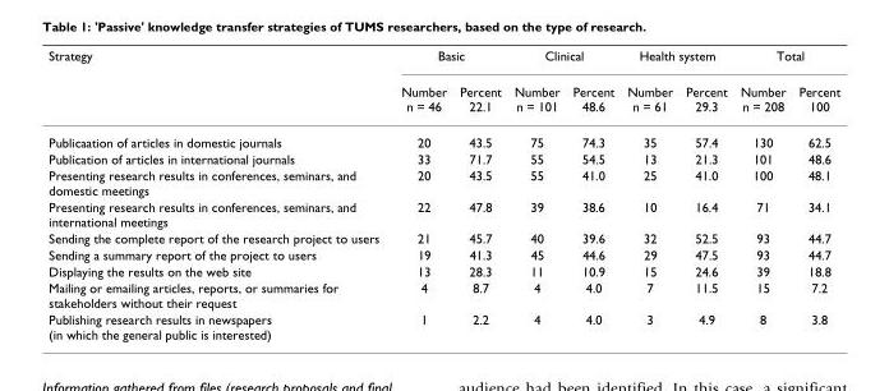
<table><thead><tr><td rowspan="2">Strategy</td><td colspan="2">Basic</td><td colspan="2">Clinical</td><td colspan="2">Health system</td><td colspan="2">Total</td></tr><tr><td>Number n = 46</td><td>Percent 22.1</td><td>Number n = 101</td><td>Percent 48.6</td><td>Number n = 61</td><td>Percent 29.3</td><td>Number n = 208</td><td>Percent 100</td></tr></thead><tbody><tr><td>Publicaation of articles in domestic journals</td><td>20</td><td>43.5</td><td>75</td><td>74.3</td><td>35</td><td>57.4</td><td>130</td><td>62.5</td></tr><tr><td>Publication of articles in international journals</td><td>33</td><td>71.7</td><td>55</td><td>54.5</td><td>13</td><td>21.3</td><td>101</td><td>48.6</td></tr><tr><td>Presenting research results in conferences, seminars, and domestic meetings</td><td>20</td><td>43.5</td><td>55</td><td>41.0</td><td>25</td><td>41.0</td><td>100</td><td>48.1</td></tr><tr><td>Presenting research results in conferences, seminars, and international meetings</td><td>22</td><td>47.8</td><td>39</td><td>38.6</td><td>10</td><td>16.4</td><td>71</td><td>34.1</td></tr><tr><td>Sending the complete report of the research project to users</td><td>21</td><td>45.7</td><td>40</td><td>39.6</td><td>32</td><td>52.5</td><td>93</td><td>44.7</td></tr><tr><td>Sending a summary report of the project to users</td><td>19</td><td>41.3</td><td>45</td><td>44.6</td><td>29</td><td>47.5</td><td>93</td><td>44.7</td></tr><tr><td>Displaying the results on the web site</td><td>13</td><td>28.3</td><td>11</td><td>10.9</td><td>15</td><td>24.6</td><td>39</td><td>18.8</td></tr><tr><td>Mailing or emailing articles, reports, or summaries for stakeholders without their request</td><td>4</td><td>8.7</td><td>4</td><td>4.0</td><td>7</td><td>11.5</td><td>15</td><td>7.2</td></tr><tr><td>Publishing research results in newspapers (in which the general public is interested)</td><td>1</td><td>2.2</td><td>4</td><td>4.0</td><td>3</td><td>4.9</td><td>8</td><td>3.8</td></tr></tbody></table>